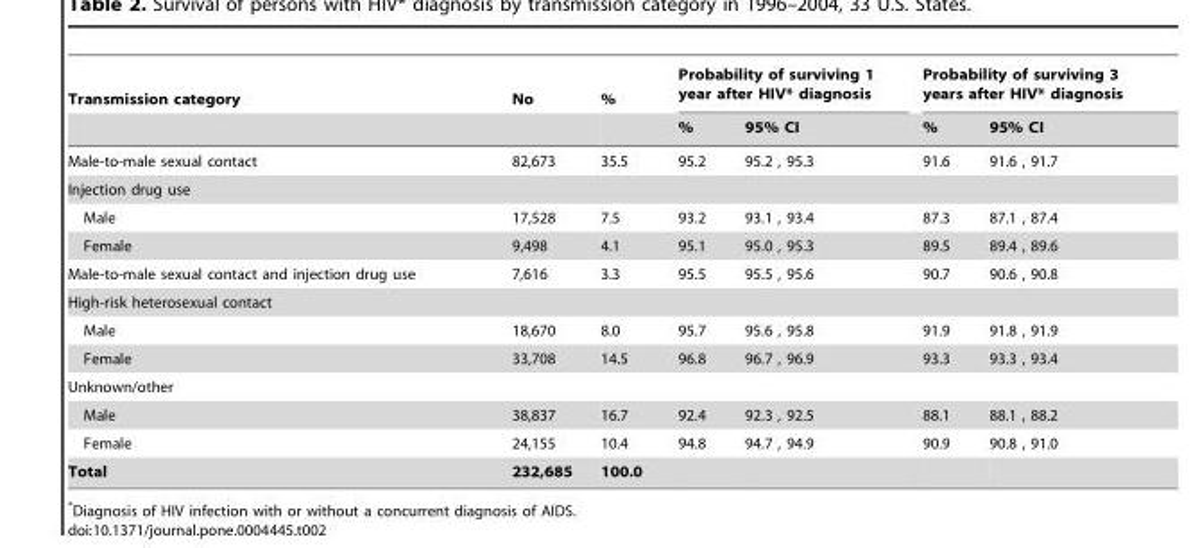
<table><thead><tr><td rowspan="2">Transmission category</td><td rowspan="2">No</td><td rowspan="2">%</td><td colspan="2">Probability of surviving 1 year after HIV* diagnosis</td><td colspan="2">Probability of surviving 3 years after HIV* diagnosis</td></tr><tr><td>%</td><td>95% CI</td><td>%</td><td>95% CI</td></tr></thead><tbody><tr><td>Male-to-male sexual contact</td><td>82,673</td><td>35.5</td><td>95.2</td><td>95.2 , 95.3</td><td>91.6</td><td>91.6 , 91.7</td></tr><tr><td colspan="7">Injection drug use</td></tr><tr><td>Male</td><td>17,528</td><td>7.5</td><td>93.2</td><td>93.1 , 93.4</td><td>87.3</td><td>87.1 , 87.4</td></tr><tr><td>Female</td><td>9,498</td><td>4.1</td><td>95.1</td><td>95.0 , 95.3</td><td>89.5</td><td>89.4 , 89.6</td></tr><tr><td>Male-to-male sexual contact and injection drug use</td><td>7,616</td><td>3.3</td><td>95.5</td><td>95.5 , 95.6</td><td>90.7</td><td>90.6 , 90.8</td></tr><tr><td colspan="7">High-risk heterosexual contact</td></tr><tr><td>Male</td><td>18,670</td><td>8.0</td><td>95.7</td><td>95.6 , 95.8</td><td>91.9</td><td>91.8 , 91.9</td></tr><tr><td>Female</td><td>33,708</td><td>14.5</td><td>96.8</td><td>96.7 , 96.9</td><td>93.3</td><td>93.3 , 93.4</td></tr><tr><td colspan="7">Unknown/other</td></tr><tr><td>Male</td><td>38,837</td><td>16.7</td><td>92.4</td><td>92.3 , 92.5</td><td>88.1</td><td>88.1 , 88.2</td></tr><tr><td>Female</td><td>24,155</td><td>10.4</td><td>94.8</td><td>94.7 , 94.9</td><td>90.9</td><td>90.8 , 91.0</td></tr><tr><td>Total</td><td>232,685</td><td>100.0</td><td></td><td></td><td></td><td></td></tr></tbody></table>